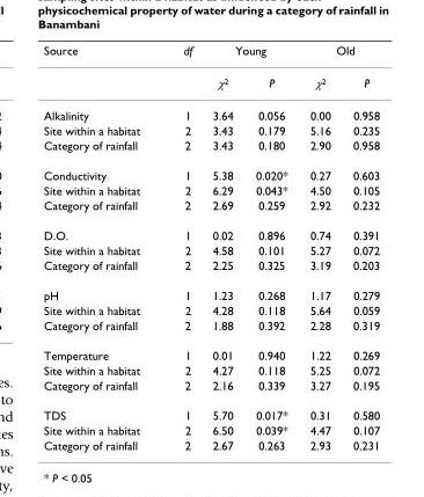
<table><thead><tr><td rowspan="2">Source</td><td rowspan="2">df</td><td colspan="2">Young</td><td colspan="2">Old</td></tr><tr><td>χ<sup>2</sup></td><td>P</td><td>χ<sup>2</sup></td><td>P</td></tr></thead><tbody><tr><td>Alkalinity</td><td>1</td><td>3.64</td><td>0.056</td><td>0.00</td><td>0.958</td></tr><tr><td>Site within a habitat</td><td>2</td><td>3.43</td><td>0.179</td><td>5.16</td><td>0.235</td></tr><tr><td>Category of rainfall</td><td>2</td><td>3.43</td><td>0.180</td><td>2.90</td><td>0.958</td></tr><tr><td>Conductivity</td><td>1</td><td>5.38</td><td>0.020*</td><td>0.27</td><td>0.603</td></tr><tr><td>Site within a habitat</td><td>2</td><td>6.29</td><td>0.043*</td><td>4.50</td><td>0.105</td></tr><tr><td>Category of rainfall</td><td>2</td><td>2.69</td><td>0.259</td><td>2.92</td><td>0.232</td></tr><tr><td>D.O.</td><td>1</td><td>0.02</td><td>0.896</td><td>0.74</td><td>0.391</td></tr><tr><td>Site within a habitat</td><td>2</td><td>4.58</td><td>0.101</td><td>5.27</td><td>0.072</td></tr><tr><td>Category of rainfall</td><td>2</td><td>2.25</td><td>0.325</td><td>3.19</td><td>0.203</td></tr><tr><td>pH</td><td>1</td><td>1.23</td><td>0.268</td><td>1.17</td><td>0.279</td></tr><tr><td>Site within a habitat</td><td>2</td><td>4.28</td><td>0.118</td><td>5.64</td><td>0.059</td></tr><tr><td>Category of rainfall</td><td>2</td><td>1.88</td><td>0.392</td><td>2.28</td><td>0.319</td></tr><tr><td>Temperature</td><td>1</td><td>0.01</td><td>0.940</td><td>1.22</td><td>0.269</td></tr><tr><td>Site within a habitat</td><td>2</td><td>4.27</td><td>0.118</td><td>5.25</td><td>0.072</td></tr><tr><td>Category of rainfall</td><td>2</td><td>2.16</td><td>0.339</td><td>3.27</td><td>0.195</td></tr><tr><td>TDS</td><td>1</td><td>5.70</td><td>0.017*</td><td>0.31</td><td>0.580</td></tr><tr><td>Site within a habitat</td><td>2</td><td>6.50</td><td>0.039*</td><td>4.47</td><td>0.107</td></tr><tr><td>Category of rainfall</td><td>2</td><td>2.67</td><td>0.263</td><td>2.93</td><td>0.231</td></tr></tbody></table>